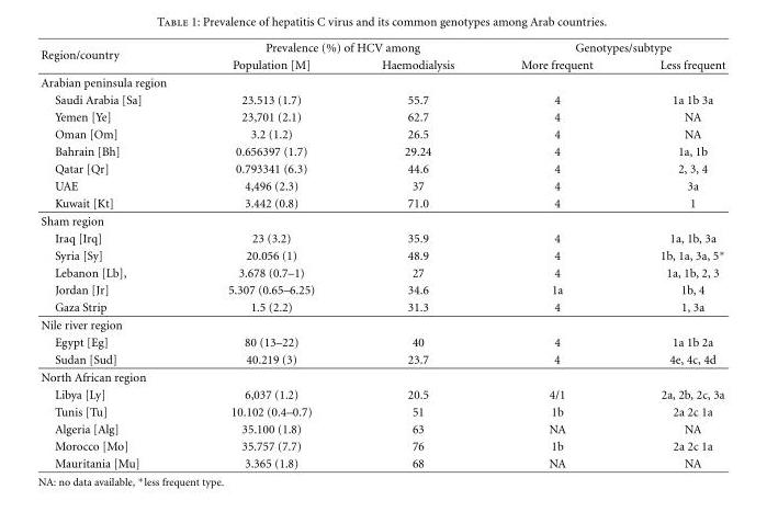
<table><thead><tr><td rowspan="2">Region/country</td><td colspan="2">Prevalence (%) of HCV among</td><td colspan="2">Genotypes/subtype</td></tr><tr><td>Population [M]</td><td>Haemodialysis</td><td>More frequent</td><td>Less frequent</td></tr></thead><tbody><tr><td colspan="5">Arabian peninsula region</td></tr><tr><td>Saudi Arabia [Sa]</td><td>23.513 (1.7)</td><td>55.7</td><td>4</td><td>1a 1b 3a</td></tr><tr><td>Yemen [Ye]</td><td>23,701 (2.1)</td><td>62.7</td><td>4</td><td>NA</td></tr><tr><td>Oman [Om]</td><td>3.2 (1.2)</td><td>26.5</td><td>4</td><td>NA</td></tr><tr><td>Bahrain [Bh]</td><td>0.656397 (1.7)</td><td>29.24</td><td>4</td><td>1a, 1b</td></tr><tr><td>Qatar [Qr]</td><td>0.793341 (6.3)</td><td>44.6</td><td>4</td><td>2, 3, 4</td></tr><tr><td>UAE</td><td>4,496 (2.3)</td><td>37</td><td>4</td><td>3a</td></tr><tr><td>Kuwait [Kt]</td><td>3.442 (0.8)</td><td>71.0</td><td>4</td><td>1</td></tr><tr><td colspan="5">Sham region</td></tr><tr><td>Iraq [Irq]</td><td>23 (3.2)</td><td>35.9</td><td>4</td><td>1a, 1b, 3a</td></tr><tr><td>Syria [Sy]</td><td>20.056 (1)</td><td>48.9</td><td>4</td><td>1b, 1a, 3a, 5∗</td></tr><tr><td>Lebanon [Lb],</td><td>3.678 (0.7–1)</td><td>27</td><td>4</td><td>1a, 1b, 2, 3</td></tr><tr><td>Jordan [Jr]</td><td>5.307 (0.65–6.25)</td><td>34.6</td><td>1a</td><td>1b, 4</td></tr><tr><td>Gaza Strip</td><td>1.5 (2.2)</td><td>31.3</td><td>4</td><td>1, 3a</td></tr><tr><td colspan="5">Nile river region</td></tr><tr><td>Egypt [Eg]</td><td>80 (13–22)</td><td>40</td><td>4</td><td>1a 1b 2a</td></tr><tr><td>Sudan [Sud]</td><td>40.219 (3)</td><td>23.7</td><td>4</td><td>4e, 4c, 4d</td></tr><tr><td colspan="5">North African region</td></tr><tr><td>Libya [Ly]</td><td>6,037 (1.2)</td><td>20.5</td><td>4/1</td><td>2a, 2b, 2c, 3a</td></tr><tr><td>Tunis [Tu]</td><td>10.102 (0.4–0.7)</td><td>51</td><td>1b</td><td>2a 2c 1a</td></tr><tr><td>Algeria [Alg]</td><td>35.100 (1.8)</td><td>63</td><td>NA</td><td>NA</td></tr><tr><td>Morocco [Mo]</td><td>35.757 (7.7)</td><td>76</td><td>1b</td><td>2a 2c 1a</td></tr><tr><td>Mauritania [Mu]</td><td>3.365 (1.8)</td><td>68</td><td>NA</td><td>NA</td></tr></tbody></table>